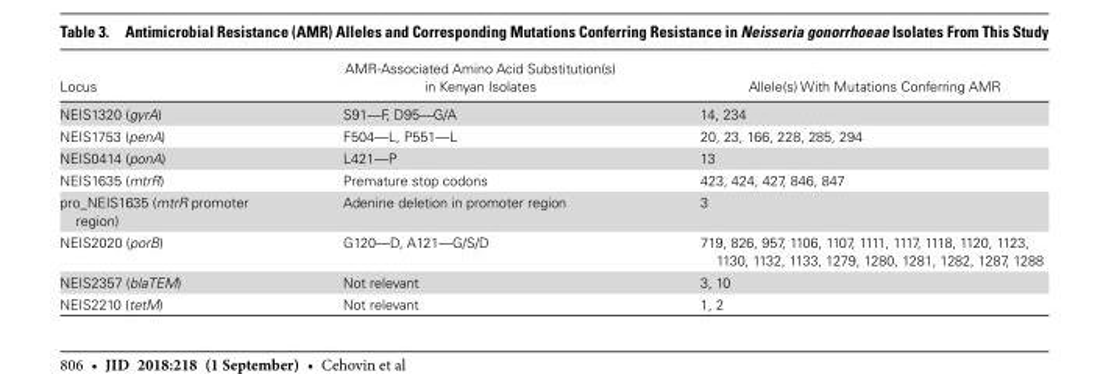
<table><thead><tr><td>Locus</td><td>AMR-Associated Amino Acid Substitution(s) in Kenyan Isolates</td><td>Allele(s) With Mutations Conferring AMR</td></tr></thead><tbody><tr><td>NEIS1320 (gyrA)</td><td>S91—F, D95—G/A</td><td>14, 234</td></tr><tr><td>NEIS1753 (penA)</td><td>F504—L, P551—L</td><td>20, 23, 166, 228, 285, 294</td></tr><tr><td>NEIS0414 (ponA)</td><td>L421—P</td><td>13</td></tr><tr><td>NEIS1635 (mtrR)</td><td>Premature stop codons</td><td>423, 424, 427, 846, 847</td></tr><tr><td>pro_NEIS1635 (mtrR promoter region)</td><td>Adenine deletion in promoter region</td><td>3</td></tr><tr><td>NEIS2020 (porB)</td><td>G120—D, A121—G/S/D</td><td>719, 826, 957, 1106, 1107, 1111, 1117, 1118, 1120, 1123, 1130, 1132, 1133, 1279, 1280, 1281, 1282, 1287, 1288</td></tr><tr><td>NEIS2357 (blaTEM)</td><td>Not relevant</td><td>3, 10</td></tr><tr><td>NEIS2210 (tetM)</td><td>Not relevant</td><td>1, 2</td></tr></tbody></table>